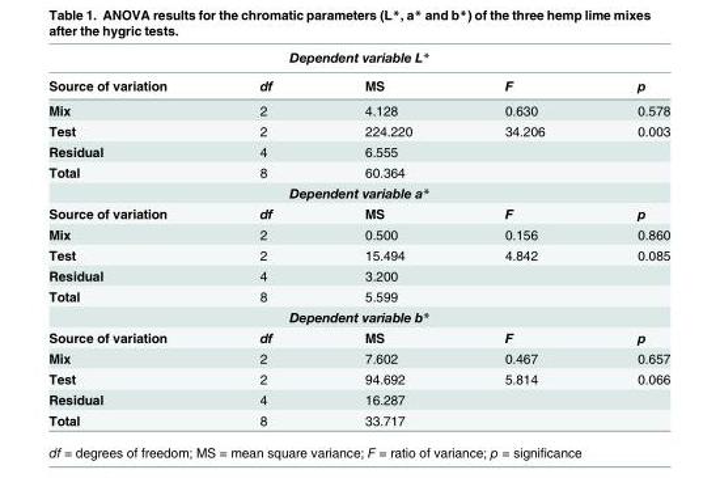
<table><thead><tr><td colspan="5">Dependent variable L*</td></tr><tr><td>Source of variation</td><td>df</td><td>MS</td><td>F</td><td>p</td></tr></thead><tbody><tr><td>Mix</td><td>2</td><td>4.128</td><td>0.630</td><td>0.578</td></tr><tr><td>Test</td><td>2</td><td>224.220</td><td>34.206</td><td>0.003</td></tr><tr><td>Residual</td><td>4</td><td>6.555</td><td></td><td></td></tr><tr><td>Total</td><td>8</td><td>60.364</td><td></td><td></td></tr><tr><td colspan="5">Dependent variable a*</td></tr><tr><td>Source of variation</td><td>df</td><td>MS</td><td>F</td><td>p</td></tr><tr><td>Mix</td><td>2</td><td>0.500</td><td>0.156</td><td>0.860</td></tr><tr><td>Test</td><td>2</td><td>15.494</td><td>4.842</td><td>0.085</td></tr><tr><td>Residual</td><td>4</td><td>3.200</td><td></td><td></td></tr><tr><td>Total</td><td>8</td><td>5.599</td><td></td><td></td></tr><tr><td colspan="5">Dependent variable b*</td></tr><tr><td>Source of variation</td><td>df</td><td>MS</td><td>F</td><td>p</td></tr><tr><td>Mix</td><td>2</td><td>7.602</td><td>0.467</td><td>0.657</td></tr><tr><td>Test</td><td>2</td><td>94.692</td><td>5.814</td><td>0.066</td></tr><tr><td>Residual</td><td>4</td><td>16.287</td><td></td><td></td></tr><tr><td>Total</td><td>8</td><td>33.717</td><td></td><td></td></tr></tbody></table>